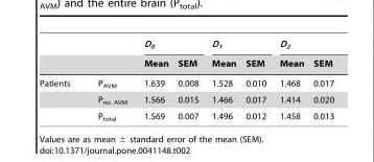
<table><thead><tr><td rowspan="2"></td><td rowspan="2"></td><td colspan="2">D<sub>0</sub></td><td colspan="2">D<sub>1</sub></td><td colspan="2">D<sub>2</sub></td></tr><tr><td>Mean</td><td>SEM</td><td>Mean</td><td>SEM</td><td>Mean</td><td>SEM</td></tr></thead><tbody><tr><td rowspan="3">Patients</td><td>P<sub>AVM</sub></td><td>1.639</td><td>0.008</td><td>1.528</td><td>0.010</td><td>1.468</td><td>0.017</td></tr><tr><td>P<sub>no AVM</sub></td><td>1.566</td><td>0.015</td><td>1.466</td><td>0.017</td><td>1.414</td><td>0.020</td></tr><tr><td>P<sub>total</sub></td><td>1.569</td><td>0.007</td><td>1.496</td><td>0.012</td><td>1.458</td><td>0.013</td></tr></tbody></table>